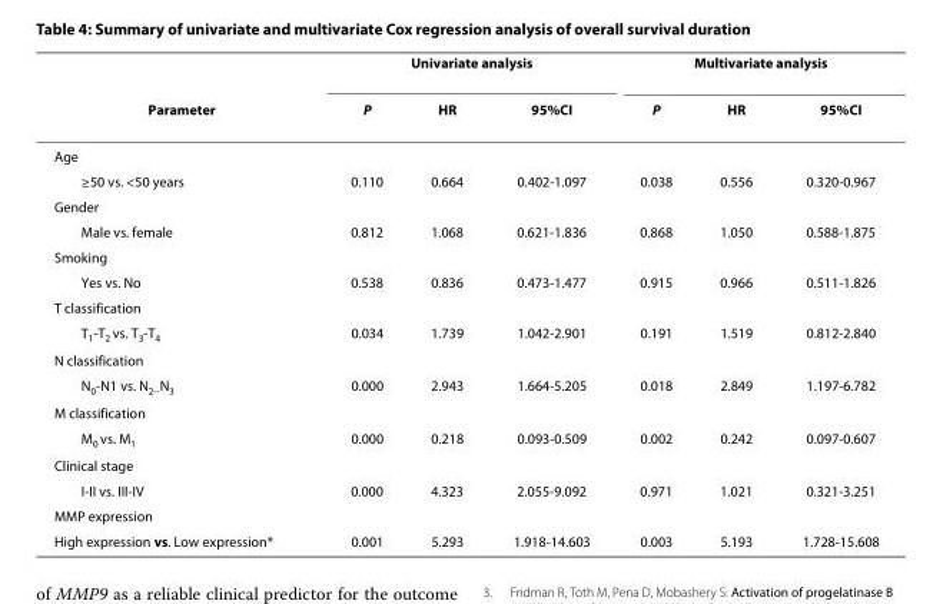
<table><thead><tr><td rowspan="2">Parameter</td><td colspan="3">Univariate analysis</td><td colspan="3">Multivariate analysis</td></tr><tr><td>P</td><td>HR</td><td>95%CI</td><td>P</td><td>HR</td><td>95%CI</td></tr></thead><tbody><tr><td colspan="7">Age</td></tr><tr><td>≥50 vs. &lt;50 years</td><td>0.110</td><td>0.664</td><td>0.402-1.097</td><td>0.038</td><td>0.556</td><td>0.320-0.967</td></tr><tr><td colspan="7">Gender</td></tr><tr><td>Male vs. female</td><td>0.812</td><td>1.068</td><td>0.621-1.836</td><td>0.868</td><td>1.050</td><td>0.588-1.875</td></tr><tr><td colspan="7">Smoking</td></tr><tr><td>Yes vs. No</td><td>0.538</td><td>0.836</td><td>0.473-1.477</td><td>0.915</td><td>0.966</td><td>0.511-1.826</td></tr><tr><td colspan="7">T classification</td></tr><tr><td>T<sub>1</sub>-T<sub>2</sub> vs. T<sub>3</sub>-T<sub>4</sub></td><td>0.034</td><td>1.739</td><td>1.042-2.901</td><td>0.191</td><td>1.519</td><td>0.812-2.840</td></tr><tr><td colspan="7">N classification</td></tr><tr><td>N<sub>0</sub>-N1 vs. N<sub>2--</sub>N<sub>3</sub></td><td>0.000</td><td>2.943</td><td>1.664-5.205</td><td>0.018</td><td>2.849</td><td>1.197-6.782</td></tr><tr><td colspan="7">M classification</td></tr><tr><td>M<sub>0</sub> vs. M<sub>1</sub></td><td>0.000</td><td>0.218</td><td>0.093-0.509</td><td>0.002</td><td>0.242</td><td>0.097-0.607</td></tr><tr><td colspan="7">Clinical stage</td></tr><tr><td>I-II vs. III-IV</td><td>0.000</td><td>4.323</td><td>2.055-9.092</td><td>0.971</td><td>1.021</td><td>0.321-3.251</td></tr><tr><td colspan="7">MMP expression</td></tr><tr><td>High expression vs. Low expression*</td><td>0.001</td><td>5.293</td><td>1.918-14.603</td><td>0.003</td><td>5.193</td><td>1.728-15.608</td></tr></tbody></table>